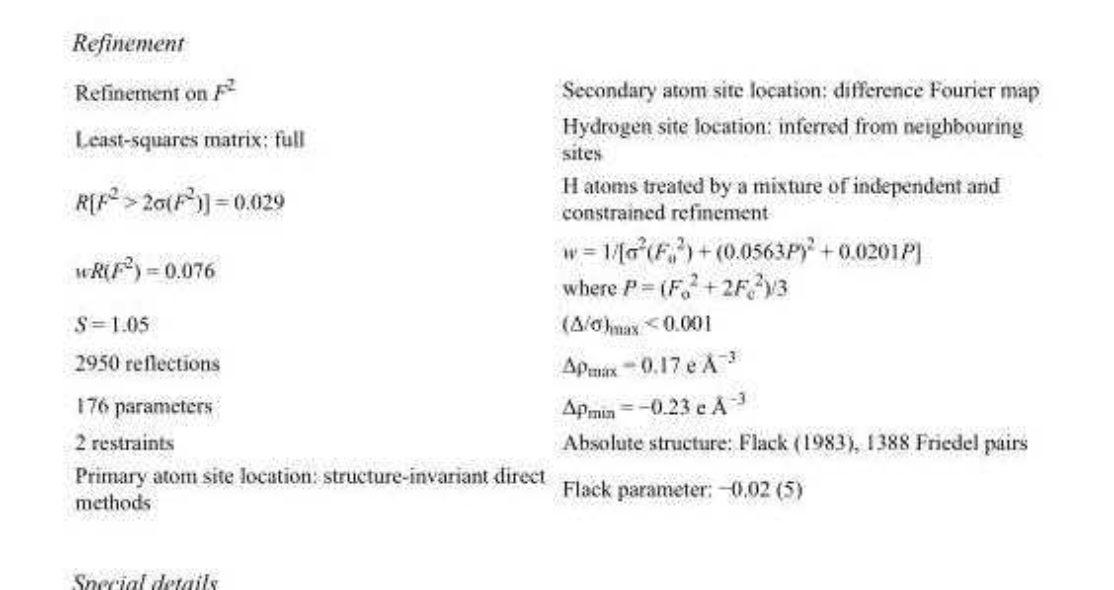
<table><tbody><tr><td>Refinement on F<sup>2</sup></td><td>Secondary atom site location: difference Fourier map</td></tr><tr><td>Least-squares matrix: full</td><td>Hydrogen site location: inferred from neighbouring sites</td></tr><tr><td>R[F<sup>2</sup> &gt; 2σ(F<sup>2</sup>)] = 0.029</td><td>H atoms treated by a mixture of independent and constrained refinement</td></tr><tr><td>wR(F<sup>2</sup>) = 0.076</td><td>w = 1/[σ<sup>2</sup>(F<sub>o</sub> <sup>2</sup>) + (0.0563P)<sup>2</sup> + 0.0201P] where P = (F<sub>o</sub> <sup>2</sup> + 2F<sub>c</sub> <sup>2</sup>)/3</td></tr><tr><td>S = 1.05</td><td>(Δ/σ)<sub>max</sub> &lt; 0.001</td></tr><tr><td>2950 reflections</td><td>Δρ<sub>max</sub> = 0.17 e Å<sup>−3</sup></td></tr><tr><td>176 parameters</td><td>Δρ<sub>min</sub> = −0.23 e Å<sup>−3</sup></td></tr><tr><td>2 restraints</td><td>Absolute structure: Flack (1983), 1388 Friedel pairs</td></tr><tr><td>Primary atom site location: structure-invariant direct methods</td><td>Flack parameter: −0.02 (5)</td></tr></tbody></table>